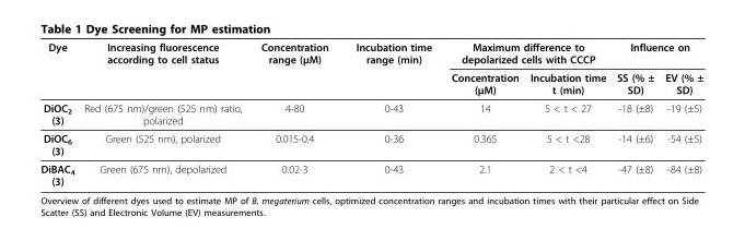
<table><thead><tr><td rowspan="2">Dye</td><td rowspan="2">Increasing fluorescence according to cell status</td><td rowspan="2">Concentration range (μM)</td><td rowspan="2">Incubation time range (min)</td><td colspan="2">Maximum difference to depolarized cells with CCCP</td><td colspan="2">Influence on</td></tr><tr><td>Concentration (μM)</td><td>Incubation time t (min)</td><td>SS (% ± SD)</td><td>EV (% ± SD)</td></tr></thead><tbody><tr><td>DiOC<sub>2</sub> (3)</td><td>Red (675 nm)/green (525 nm) ratio, polarized</td><td>4-80</td><td>0-43</td><td>14</td><td>5 &lt; t &lt; 27</td><td>-18 (±8)</td><td>-19 (±5)</td></tr><tr><td>DiOC<sub>6</sub> (3)</td><td>Green (525 nm), polarized</td><td>0.015-0.4</td><td>0-36</td><td>0.365</td><td>5 &lt; t &lt;28</td><td>-14 (±6)</td><td>-54 (±5)</td></tr><tr><td>DiBAC<sub>4</sub> (3)</td><td>Green (675 nm), depolarized</td><td>0.02-3</td><td>0-43</td><td>2.1</td><td>2 &lt; t &lt;4</td><td>-47 (±8)</td><td>-84 (±8)</td></tr></tbody></table>